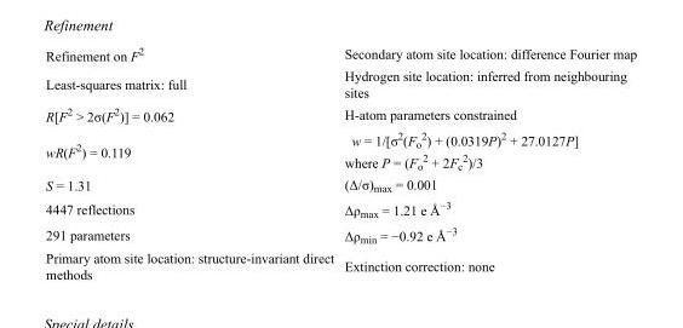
<table><tbody><tr><td>Refinement on F<sup>2</sup></td><td>Secondary atom site location: difference Fourier map</td></tr><tr><td>Least-squares matrix: full</td><td>Hydrogen site location: inferred from neighbouring sites</td></tr><tr><td>R[F<sup>2</sup> &gt; 2σ(F<sup>2</sup>)] = 0.062</td><td>H-atom parameters constrained</td></tr><tr><td>wR(F<sup>2</sup>) = 0.119</td><td>w = 1/[σ<sup>2</sup>(F<sub>o</sub> <sup>2</sup>) + (0.0319P)<sup>2</sup> + 27.0127P] where P = (F<sub>o</sub> <sup>2</sup> + 2F<sub>c</sub> <sup>2</sup>)/3</td></tr><tr><td>S = 1.31</td><td>(Δ/σ)<sub>max</sub> = 0.001</td></tr><tr><td>4447 reflections</td><td>Δρ<sub>max</sub> = 1.21 e Å<sup>−3</sup></td></tr><tr><td>291 parameters</td><td>Δρ<sub>min</sub> = −0.92 e Å<sup>−3</sup></td></tr><tr><td>Primary atom site location: structure-invariant direct methods</td><td>Extinction correction: none</td></tr></tbody></table>